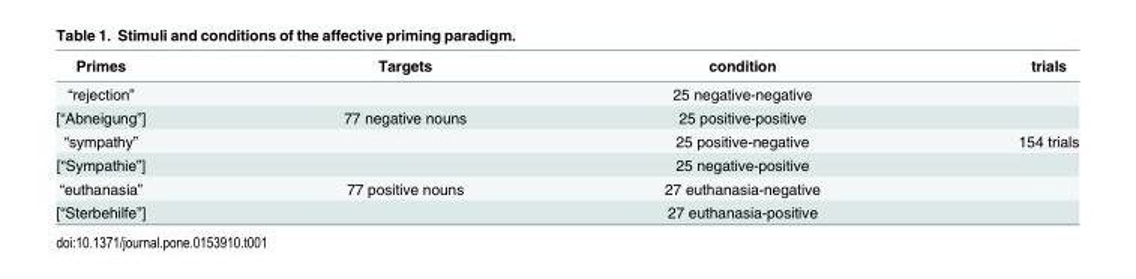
<table><thead><tr><td>Primes</td><td>Targets</td><td>condition</td><td>trials</td></tr></thead><tbody><tr><td>“rejection”</td><td></td><td>25 negative-negative</td><td></td></tr><tr><td>[“Abneigung”]</td><td>77 negative nouns</td><td>25 positive-positive</td><td></td></tr><tr><td>“sympathy”</td><td></td><td>25 positive-negative</td><td>154 trials</td></tr><tr><td>[“Sympathie”]</td><td></td><td>25 negative-positive</td><td></td></tr><tr><td>“euthanasia”</td><td>77 positive nouns</td><td>27 euthanasia-negative</td><td></td></tr><tr><td>[“Sterbehilfe”]</td><td></td><td>27 euthanasia-positive</td><td></td></tr></tbody></table>